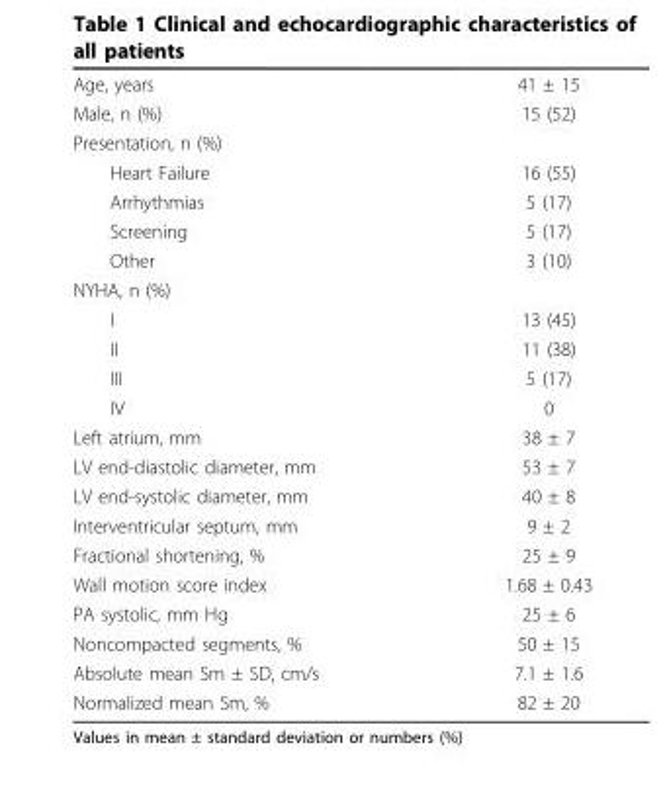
<table><tbody><tr><td>Age, years</td><td>41 ± 15</td></tr><tr><td>Male, n (%)</td><td>15 (52)</td></tr><tr><td colspan="2">Presentation, n (%)</td></tr><tr><td>Heart Failure</td><td>16 (55)</td></tr><tr><td>Arrhythmias</td><td>5 (17)</td></tr><tr><td>Screening</td><td>5 (17)</td></tr><tr><td>Other</td><td>3 (10)</td></tr><tr><td colspan="2">NYHA, n (%)</td></tr><tr><td>I</td><td>13 (45)</td></tr><tr><td>II</td><td>11 (38)</td></tr><tr><td>III</td><td>5 (17)</td></tr><tr><td>IV</td><td>0</td></tr><tr><td>Left atrium, mm</td><td>38 ± 7</td></tr><tr><td>LV end-diastolic diameter, mm</td><td>53 ± 7</td></tr><tr><td>LV end-systolic diameter, mm</td><td>40 ± 8</td></tr><tr><td>Interventricular septum, mm</td><td>9 ± 2</td></tr><tr><td>Fractional shortening, %</td><td>25 ± 9</td></tr><tr><td>Wall motion score index</td><td>1.68 ± 0.43</td></tr><tr><td>PA systolic, mm Hg</td><td>25 ± 6</td></tr><tr><td>Noncompacted segments, %</td><td>50 ± 15</td></tr><tr><td>Absolute mean Sm ± SD, cm/s</td><td>7.1 ± 1.6</td></tr><tr><td>Normalized mean Sm, %</td><td>82 ± 20</td></tr></tbody></table>